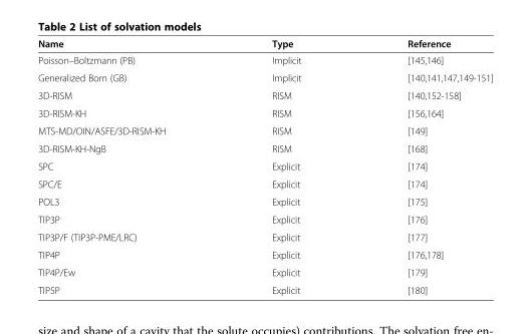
<table><thead><tr><td>Name</td><td>Type</td><td>Reference</td></tr></thead><tbody><tr><td>Poisson–Boltzmann (PB)</td><td>Implicit</td><td>[145,146]</td></tr><tr><td>Generalized Born (GB)</td><td>Implicit</td><td>[140,141,147,149-151]</td></tr><tr><td>3D-RISM</td><td>RISM</td><td>[140,152-158]</td></tr><tr><td>3D-RISM-KH</td><td>RISM</td><td>[156,164]</td></tr><tr><td>MTS-MD/OIN/ASFE/3D-RISM-KH</td><td>RISM</td><td>[149]</td></tr><tr><td>3D-RISM-KH-NgB</td><td>RISM</td><td>[168]</td></tr><tr><td>SPC</td><td>Explicit</td><td>[174]</td></tr><tr><td>SPC/E</td><td>Explicit</td><td>[174]</td></tr><tr><td>POL3</td><td>Explicit</td><td>[175]</td></tr><tr><td>TIP3P</td><td>Explicit</td><td>[176]</td></tr><tr><td>TIP3P/F (TIP3P-PME/LRC)</td><td>Explicit</td><td>[177]</td></tr><tr><td>TIP4P</td><td>Explicit</td><td>[176,178]</td></tr><tr><td>TIP4P/Ew</td><td>Explicit</td><td>[179]</td></tr><tr><td>TIP5P</td><td>Explicit</td><td>[180]</td></tr></tbody></table>